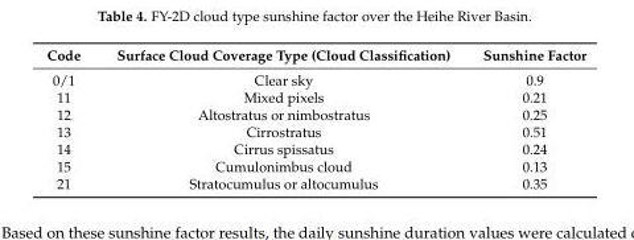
<table><thead><tr><td>Code</td><td>Surface Cloud Coverage Type (Cloud Classification)</td><td>Sunshine Factor</td></tr></thead><tbody><tr><td>0/1</td><td>Clear sky</td><td>0.9</td></tr><tr><td>11</td><td>Mixed pixels</td><td>0.21</td></tr><tr><td>12</td><td>Altostratus or nimbostratus</td><td>0.25</td></tr><tr><td>13</td><td>Cirrostratus</td><td>0.51</td></tr><tr><td>14</td><td>Cirrus spissatus</td><td>0.24</td></tr><tr><td>15</td><td>Cumulonimbus cloud</td><td>0.13</td></tr><tr><td>21</td><td>Stratocumulus or altocumulus</td><td>0.35</td></tr></tbody></table>